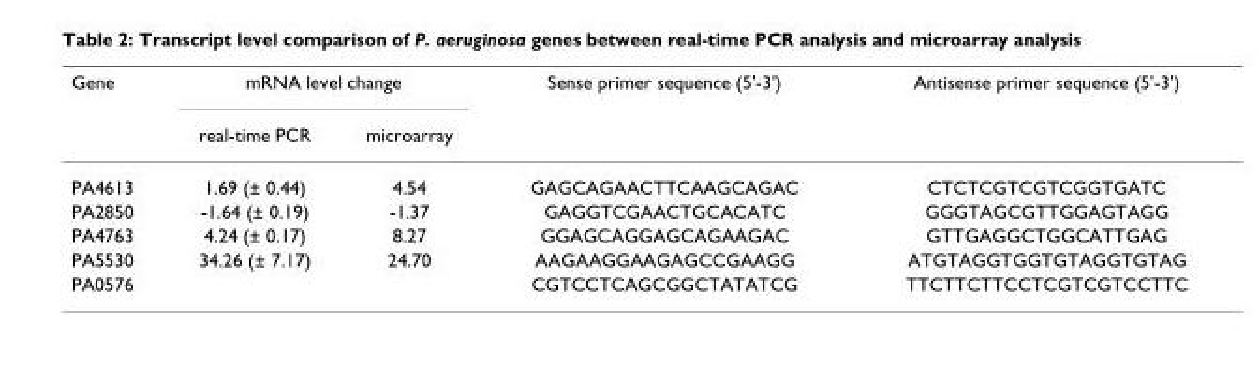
<table><thead><tr><td rowspan="2">Gene</td><td colspan="2">mRNA level change</td><td rowspan="2">Sense primer sequence (5&#x27;-3&#x27;)</td><td rowspan="2">Antisense primer sequence (5&#x27;-3&#x27;)</td></tr><tr><td>real-time PCR</td><td>microarray</td></tr></thead><tbody><tr><td>PA4613</td><td>1.69 (± 0.44)</td><td>4.54</td><td>GAGCAGAACTTCAAGCAGAC</td><td>CTCTCGTCGTCGGTGATC</td></tr><tr><td>PA2850</td><td>-1.64 (± 0.19)</td><td>-1.37</td><td>GAGGTCGAACTGCACATC</td><td>GGGTAGCGTTGGAGTAGG</td></tr><tr><td>PA4763</td><td>4.24 (± 0.17)</td><td>8.27</td><td>GGAGCAGGAGCAGAAGAC</td><td>GTTGAGGCTGGCATTGAG</td></tr><tr><td>PA5530</td><td>34.26 (± 7.17)</td><td>24.70</td><td>AAGAAGGAAGAGCCGAAGG</td><td>ATGTAGGTGGTGTAGGTGTAG</td></tr><tr><td>PA0576</td><td></td><td></td><td>CGTCCTCAGCGGCTATATCG</td><td>TTCTTCTTCCTCGTCGTCCTTC</td></tr></tbody></table>